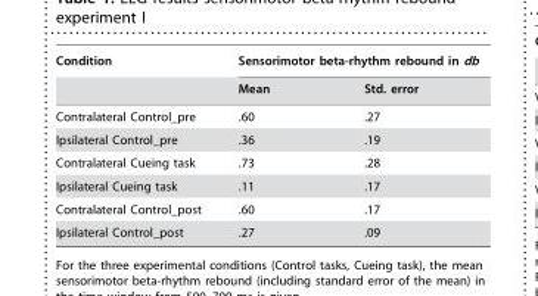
<table><thead><tr><td rowspan="2">Condition</td><td colspan="2">Sensorimotor beta-rhythm rebound in db</td></tr><tr><td>Mean</td><td>Std. error</td></tr></thead><tbody><tr><td>Contralateral Control_pre</td><td>.60</td><td>.27</td></tr><tr><td>Ipsilateral Control_pre</td><td>.36</td><td>.19</td></tr><tr><td>Contralateral Cueing task</td><td>.73</td><td>.28</td></tr><tr><td>Ipsilateral Cueing task</td><td>.11</td><td>.17</td></tr><tr><td>Contralateral Control_post</td><td>.60</td><td>.17</td></tr><tr><td>Ipsilateral Control_post</td><td>.27</td><td>.09</td></tr></tbody></table>